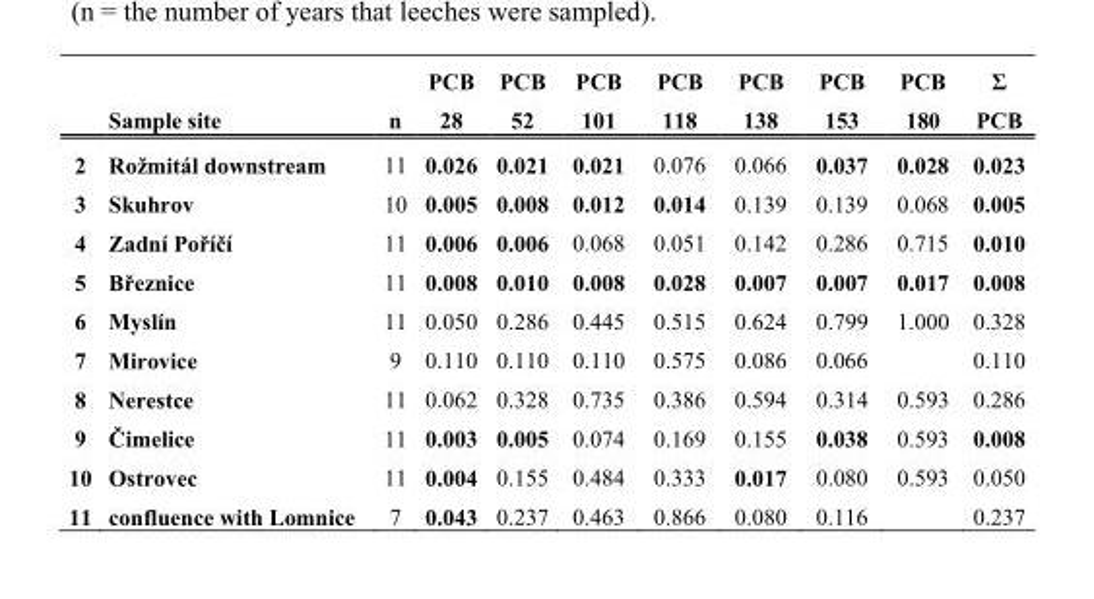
<table><thead><tr><td></td><td>Sample site</td><td>n</td><td>PCB 28</td><td>PCB 52</td><td>PCB 101</td><td>PCB 118</td><td>PCB 138</td><td>PCB 153</td><td>PCB 180</td><td>Σ PCB</td></tr></thead><tbody><tr><td>2</td><td>Rožmitál downstream</td><td>11</td><td>0.026</td><td>0.021</td><td>0.021</td><td>0.076</td><td>0.066</td><td>0.037</td><td>0.028</td><td>0.023</td></tr><tr><td>3</td><td>Skuhrov</td><td>10</td><td>0.005</td><td>0.008</td><td>0.012</td><td>0.014</td><td>0.139</td><td>0.139</td><td>0.068</td><td>0.005</td></tr><tr><td>4</td><td>Zadní Poříčí</td><td>11</td><td>0.006</td><td>0.006</td><td>0.068</td><td>0.051</td><td>0.142</td><td>0.286</td><td>0.715</td><td>0.010</td></tr><tr><td>5</td><td>Březnice</td><td>11</td><td>0.008</td><td>0.010</td><td>0.008</td><td>0.028</td><td>0.007</td><td>0.007</td><td>0.017</td><td>0.008</td></tr><tr><td>6</td><td>Myslín</td><td>11</td><td>0.050</td><td>0.286</td><td>0.445</td><td>0.515</td><td>0.624</td><td>0.799</td><td>1.000</td><td>0.328</td></tr><tr><td>7</td><td>Mirovice</td><td>9</td><td>0.110</td><td>0.110</td><td>0.110</td><td>0.575</td><td>0.086</td><td>0.066</td><td></td><td>0.110</td></tr><tr><td>8</td><td>Nerestce</td><td>11</td><td>0.062</td><td>0.328</td><td>0.735</td><td>0.386</td><td>0.594</td><td>0.314</td><td>0.593</td><td>0.286</td></tr><tr><td>9</td><td>Čimelice</td><td>11</td><td>0.003</td><td>0.005</td><td>0.074</td><td>0.169</td><td>0.155</td><td>0.038</td><td>0.593</td><td>0.008</td></tr><tr><td>10</td><td>Ostrovec</td><td>11</td><td>0.004</td><td>0.155</td><td>0.484</td><td>0.333</td><td>0.017</td><td>0.080</td><td>0.593</td><td>0.050</td></tr><tr><td>11</td><td>confluence with Lomnice</td><td>7</td><td>0.043</td><td>0.237</td><td>0.463</td><td>0.866</td><td>0.080</td><td>0.116</td><td></td><td>0.237</td></tr></tbody></table>